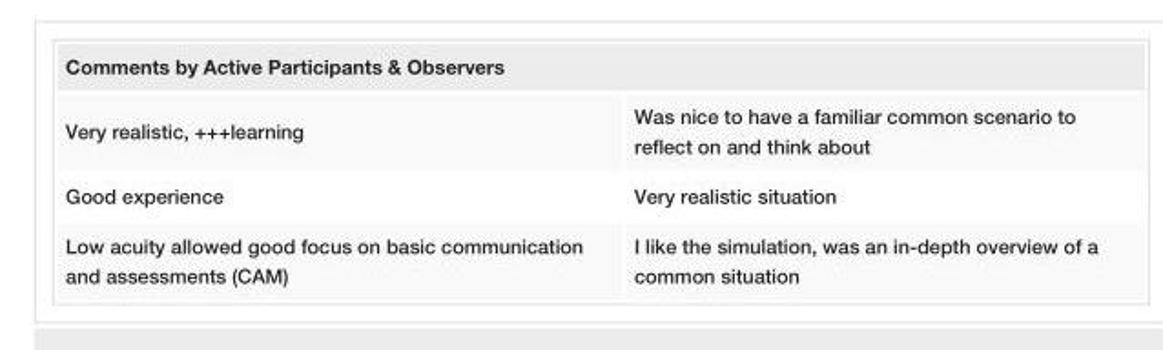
<table><tbody><tr><td colspan="2">Comments by Active Participants &amp; Observers</td></tr><tr><td>Very realistic, +++learning</td><td>Was nice to have a familiar common scenario to reflect on and think about</td></tr><tr><td>Good experience</td><td>Very realistic situation</td></tr><tr><td>Low acuity allowed good focus on basic communication and assessments (CAM)</td><td>I like the simulation, was an in-depth overview of a common situation</td></tr></tbody></table>